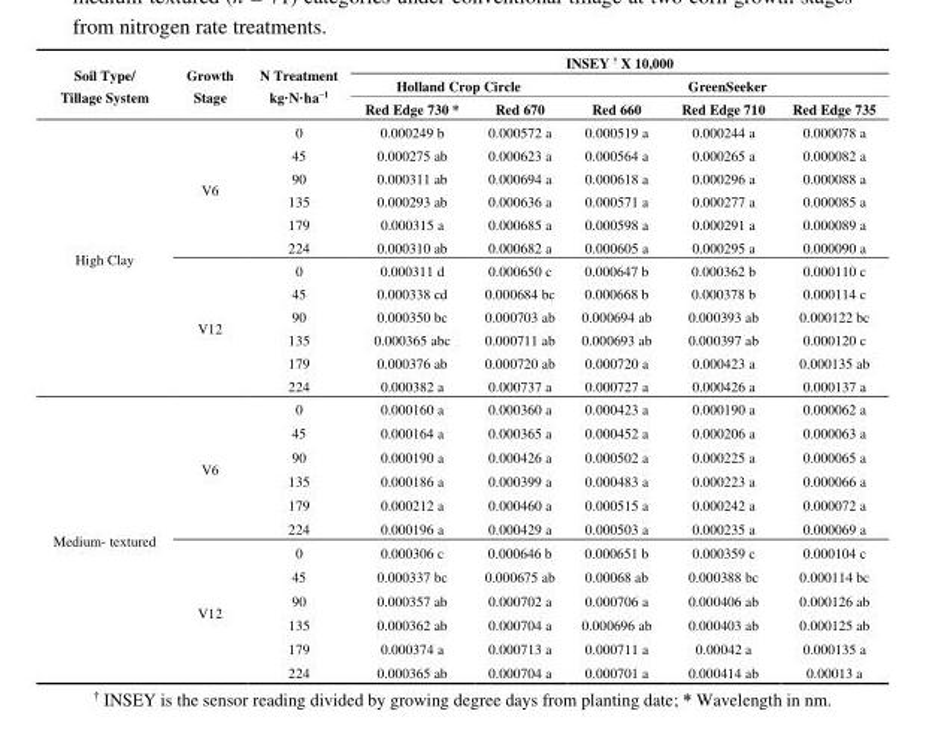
<table><thead><tr><td rowspan="3">Soil Type/ Tillage System</td><td rowspan="3">Growth Stage</td><td rowspan="3">N Treatment kg·N·ha<sup>−1</sup></td><td colspan="5">INSEY <sup>†</sup> X 10,000</td></tr><tr><td colspan="2">Holland Crop Circle</td><td colspan="3">GreenSeeker</td></tr><tr><td>Red Edge 730 *</td><td>Red 670</td><td>Red 660</td><td>Red Edge 710</td><td>Red Edge 735</td></tr></thead><tbody><tr><td rowspan="12">High Clay</td><td rowspan="6">V6</td><td>0</td><td>0.000249 b</td><td>0.000572 a</td><td>0.000519 a</td><td>0.000244 a</td><td>0.000078 a</td></tr><tr><td>45</td><td>0.000275 ab</td><td>0.000623 a</td><td>0.000564 a</td><td>0.000265 a</td><td>0.000082 a</td></tr><tr><td>90</td><td>0.000311 ab</td><td>0.000694 a</td><td>0.000618 a</td><td>0.000296 a</td><td>0.000088 a</td></tr><tr><td>135</td><td>0.000293 ab</td><td>0.000636 a</td><td>0.000571 a</td><td>0.000277 a</td><td>0.000085 a</td></tr><tr><td>179</td><td>0.000315 a</td><td>0.000685 a</td><td>0.000598 a</td><td>0.000291 a</td><td>0.000089 a</td></tr><tr><td>224</td><td>0.000310 ab</td><td>0.000682 a</td><td>0.000605 a</td><td>0.000295 a</td><td>0.000090 a</td></tr><tr><td rowspan="6">V12</td><td>0</td><td>0.000311 d</td><td>0.000650 c</td><td>0.000647 b</td><td>0.000362 b</td><td>0.000110 c</td></tr><tr><td>45</td><td>0.000338 cd</td><td>0.000684 bc</td><td>0.000668 b</td><td>0.000378 b</td><td>0.000114 c</td></tr><tr><td>90</td><td>0.000350 bc</td><td>0.000703 ab</td><td>0.000694 ab</td><td>0.000393 ab</td><td>0.000122 bc</td></tr><tr><td>135</td><td>0.000365 abc</td><td>0.000711 ab</td><td>0.000693 ab</td><td>0.000397 ab</td><td>0.000120 c</td></tr><tr><td>179</td><td>0.000376 ab</td><td>0.000720 ab</td><td>0.000720 a</td><td>0.000423 a</td><td>0.000135 ab</td></tr><tr><td>224</td><td>0.000382 a</td><td>0.000737 a</td><td>0.000727 a</td><td>0.000426 a</td><td>0.000137 a</td></tr><tr><td rowspan="12">Medium- textured</td><td rowspan="6">V6</td><td>0</td><td>0.000160 a</td><td>0.000360 a</td><td>0.000423 a</td><td>0.000190 a</td><td>0.000062 a</td></tr><tr><td>45</td><td>0.000164 a</td><td>0.000365 a</td><td>0.000452 a</td><td>0.000206 a</td><td>0.000063 a</td></tr><tr><td>90</td><td>0.000190 a</td><td>0.000426 a</td><td>0.000502 a</td><td>0.000225 a</td><td>0.000065 a</td></tr><tr><td>135</td><td>0.000186 a</td><td>0.000399 a</td><td>0.000483 a</td><td>0.000223 a</td><td>0.000066 a</td></tr><tr><td>179</td><td>0.000212 a</td><td>0.000460 a</td><td>0.000515 a</td><td>0.000242 a</td><td>0.000072 a</td></tr><tr><td>224</td><td>0.000196 a</td><td>0.000429 a</td><td>0.000503 a</td><td>0.000235 a</td><td>0.000069 a</td></tr><tr><td rowspan="6">V12</td><td>0</td><td>0.000306 c</td><td>0.000646 b</td><td>0.000651 b</td><td>0.000359 c</td><td>0.000104 c</td></tr><tr><td>45</td><td>0.000337 bc</td><td>0.000675 ab</td><td>0.00068 ab</td><td>0.000388 bc</td><td>0.000114 bc</td></tr><tr><td>90</td><td>0.000357 ab</td><td>0.000702 a</td><td>0.000706 a</td><td>0.000406 ab</td><td>0.000126 ab</td></tr><tr><td>135</td><td>0.000362 ab</td><td>0.000704 a</td><td>0.000696 ab</td><td>0.000403 ab</td><td>0.000125 ab</td></tr><tr><td>179</td><td>0.000374 a</td><td>0.000713 a</td><td>0.000711 a</td><td>0.00042 a</td><td>0.000135 a</td></tr><tr><td>224</td><td>0.000365 ab</td><td>0.000704 a</td><td>0.000701 a</td><td>0.000414 ab</td><td>0.00013 a</td></tr></tbody></table>